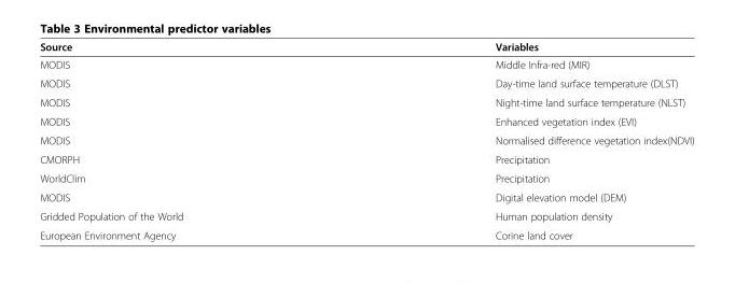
<table><thead><tr><td>Source</td><td>Variables</td></tr></thead><tbody><tr><td>MODIS</td><td>Middle Infra-red (MIR)</td></tr><tr><td>MODIS</td><td>Day-time land surface temperature (DLST)</td></tr><tr><td>MODIS</td><td>Night-time land surface temperature (NLST)</td></tr><tr><td>MODIS</td><td>Enhanced vegetation index (EVI)</td></tr><tr><td>MODIS</td><td>Normalised difference vegetation index(NDVI)</td></tr><tr><td>CMORPH</td><td>Precipitation</td></tr><tr><td>WorldClim</td><td>Precipitation</td></tr><tr><td>MODIS</td><td>Digital elevation model (DEM)</td></tr><tr><td>Gridded Population of the World</td><td>Human population density</td></tr><tr><td>European Environment Agency</td><td>Corine land cover</td></tr></tbody></table>